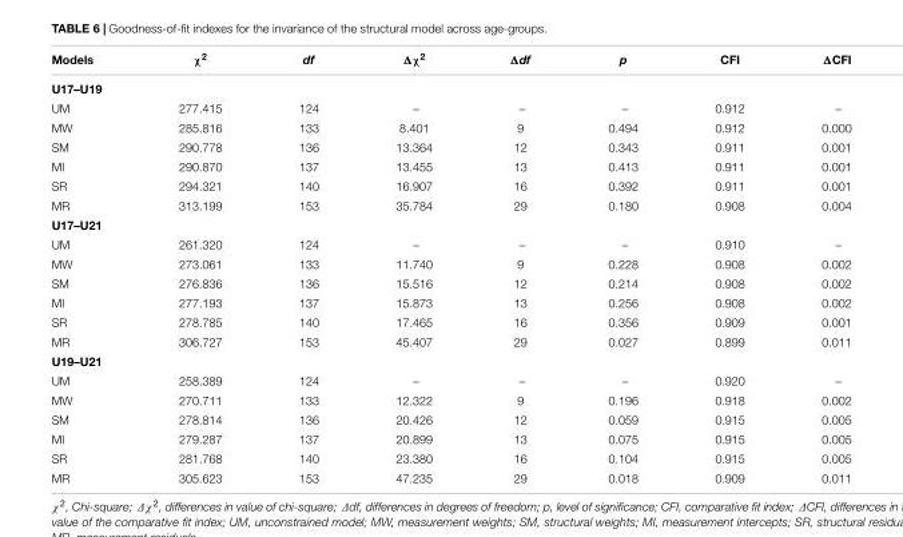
<table><thead><tr><td>Models</td><td>χ<sup>2</sup></td><td>df</td><td>Δχ<sup>2</sup></td><td>Δdf</td><td>p</td><td>CFI</td><td>ΔCFI</td></tr></thead><tbody><tr><td colspan="8">U17–U19</td></tr><tr><td>UM</td><td>277.415</td><td>124</td><td>–</td><td>–</td><td>–</td><td>0.912</td><td>–</td></tr><tr><td>MW</td><td>285.816</td><td>133</td><td>8.401</td><td>9</td><td>0.494</td><td>0.912</td><td>0.000</td></tr><tr><td>SM</td><td>290.778</td><td>136</td><td>13.364</td><td>12</td><td>0.343</td><td>0.911</td><td>0.001</td></tr><tr><td>MI</td><td>290.870</td><td>137</td><td>13.455</td><td>13</td><td>0.413</td><td>0.911</td><td>0.001</td></tr><tr><td>SR</td><td>294.321</td><td>140</td><td>16.907</td><td>16</td><td>0.392</td><td>0.911</td><td>0.001</td></tr><tr><td>MR</td><td>313.199</td><td>153</td><td>35.784</td><td>29</td><td>0.180</td><td>0.908</td><td>0.004</td></tr><tr><td colspan="8">U17–U21</td></tr><tr><td>UM</td><td>261.320</td><td>124</td><td>–</td><td>–</td><td>–</td><td>0.910</td><td>–</td></tr><tr><td>MW</td><td>273.061</td><td>133</td><td>11.740</td><td>9</td><td>0.228</td><td>0.908</td><td>0.002</td></tr><tr><td>SM</td><td>276.836</td><td>136</td><td>15.516</td><td>12</td><td>0.214</td><td>0.908</td><td>0.002</td></tr><tr><td>MI</td><td>277.193</td><td>137</td><td>15.873</td><td>13</td><td>0.256</td><td>0.908</td><td>0.002</td></tr><tr><td>SR</td><td>278.785</td><td>140</td><td>17.465</td><td>16</td><td>0.356</td><td>0.909</td><td>0.001</td></tr><tr><td>MR</td><td>306.727</td><td>153</td><td>45.407</td><td>29</td><td>0.027</td><td>0.899</td><td>0.011</td></tr><tr><td colspan="8">U19–U21</td></tr><tr><td>UM</td><td>258.389</td><td>124</td><td>–</td><td>–</td><td>–</td><td>0.920</td><td>–</td></tr><tr><td>MW</td><td>270.711</td><td>133</td><td>12.322</td><td>9</td><td>0.196</td><td>0.918</td><td>0.002</td></tr><tr><td>SM</td><td>278.814</td><td>136</td><td>20.426</td><td>12</td><td>0.059</td><td>0.915</td><td>0.005</td></tr><tr><td>MI</td><td>279.287</td><td>137</td><td>20.899</td><td>13</td><td>0.075</td><td>0.915</td><td>0.005</td></tr><tr><td>SR</td><td>281.768</td><td>140</td><td>23.380</td><td>16</td><td>0.104</td><td>0.915</td><td>0.005</td></tr><tr><td>MR</td><td>305.623</td><td>153</td><td>47.235</td><td>29</td><td>0.018</td><td>0.909</td><td>0.011</td></tr></tbody></table>